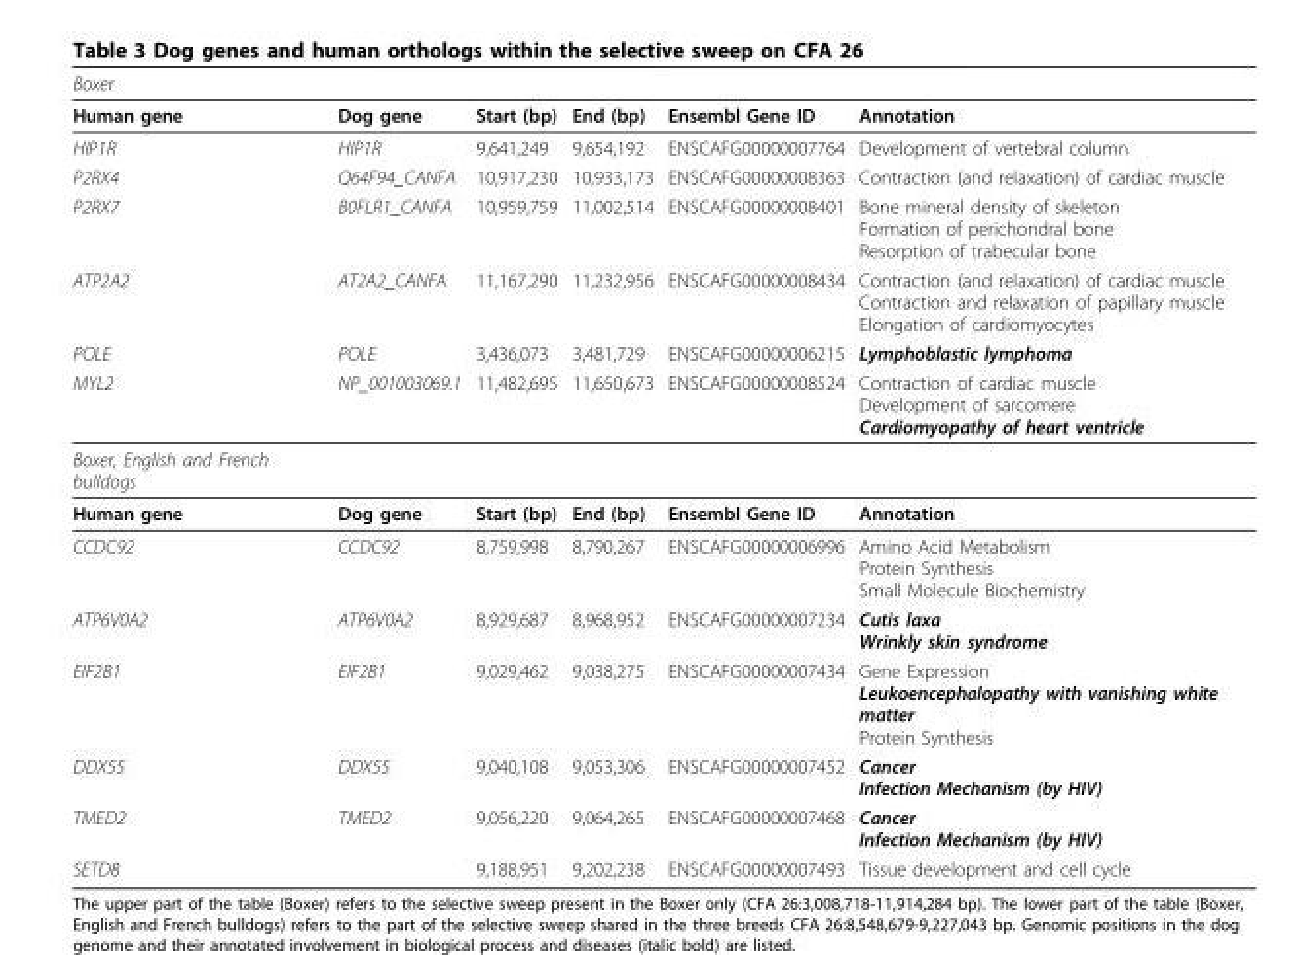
<table><thead><tr><td>Boxer</td><td></td><td></td><td></td><td></td><td></td></tr></thead><tbody><tr><td>Human gene</td><td>Dog gene</td><td>Start (bp)</td><td>End (bp)</td><td>Ensembl Gene ID</td><td>Annotation</td></tr><tr><td>HIP1R</td><td>HIP1R</td><td>9,641,249</td><td>9,654,192</td><td>ENSCAFG00000007764</td><td>Development of vertebral column</td></tr><tr><td>P2RX4</td><td>Q64F94_CANFA</td><td>10,917,230</td><td>10,933,173</td><td>ENSCAFG00000008363</td><td>Contraction (and relaxation) of cardiac muscle</td></tr><tr><td>P2RX7</td><td>B0FLR1_CANFA</td><td>10,959,759</td><td>11,002,514</td><td>ENSCAFG00000008401</td><td>Bone mineral density of skeleton Formation of perichondral bone Resorption of trabecular bone</td></tr><tr><td>ATP2A2</td><td>AT2A2_CANFA</td><td>11,167,290</td><td>11,232,956</td><td>ENSCAFG00000008434</td><td>Contraction (and relaxation) of cardiac muscle Contraction and relaxation of papillary muscle Elongation of cardiomyocytes</td></tr><tr><td>POLE</td><td>POLE</td><td>3,436,073</td><td>3,481,729</td><td>ENSCAFG00000006215</td><td>Lymphoblastic lymphoma</td></tr><tr><td>MYL2</td><td>NP_001003069.1</td><td>11,482,695</td><td>11,650,673</td><td>ENSCAFG00000008524</td><td>Contraction of cardiac muscle Development of sarcomere Cardiomyopathy of heart ventricle</td></tr><tr><td colspan="6">Boxer, English and French bulldogs</td></tr><tr><td>Human gene</td><td>Dog gene</td><td>Start (bp)</td><td>End (bp)</td><td>Ensembl Gene ID</td><td>Annotation</td></tr><tr><td>CCDC92</td><td>CCDC92</td><td>8,759,998</td><td>8,790,267</td><td>ENSCAFG00000006996</td><td>Amino Acid Metabolism Protein Synthesis Small Molecule Biochemistry</td></tr><tr><td>ATP6V0A2</td><td>ATP6V0A2</td><td>8,929,687</td><td>8,968,952</td><td>ENSCAFG00000007234</td><td>Cutis laxa Wrinkly skin syndrome</td></tr><tr><td>EIF2B1</td><td>EIF2B1</td><td>9,029,462</td><td>9,038,275</td><td>ENSCAFG00000007434</td><td>Gene Expression Leukoencephalopathy with vanishing white matter Protein Synthesis</td></tr><tr><td>DDX55</td><td>DDX55</td><td>9,040,108</td><td>9,053,306</td><td>ENSCAFG00000007452</td><td>Cancer Infection Mechanism (by HIV)</td></tr><tr><td>TMED2</td><td>TMED2</td><td>9,056,220</td><td>9,064,265</td><td>ENSCAFG00000007468</td><td>Cancer Infection Mechanism (by HIV)</td></tr><tr><td>SETD8</td><td></td><td>9,188,951</td><td>9,202,238</td><td>ENSCAFG00000007493</td><td>Tissue development and cell cycle</td></tr></tbody></table>